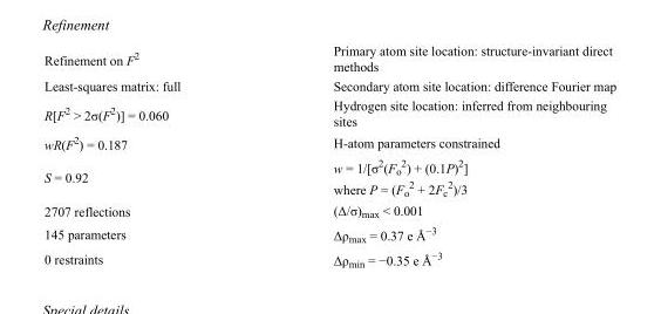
<table><tbody><tr><td>Refinement on F<sup>2</sup></td><td>Primary atom site location: structure-invariant direct methods</td></tr><tr><td>Least-squares matrix: full</td><td>Secondary atom site location: difference Fourier map</td></tr><tr><td>R[F<sup>2</sup> &gt; 2σ(F<sup>2</sup>)] = 0.060</td><td>Hydrogen site location: inferred from neighbouring sites</td></tr><tr><td>wR(F<sup>2</sup>) = 0.187</td><td>H-atom parameters constrained</td></tr><tr><td>S = 0.92</td><td>w = 1/[σ<sup>2</sup>(F<sub>o</sub> <sup>2</sup>) + (0.1P)<sup>2</sup>] where P = (F<sub>o</sub> <sup>2</sup> + 2F<sub>c</sub> <sup>2</sup>)/3</td></tr><tr><td>2707 reflections</td><td>(Δ/σ)<sub>max</sub> &lt; 0.001</td></tr><tr><td>145 parameters</td><td>Δρ<sub>max</sub> = 0.37 e Å<sup>−3</sup></td></tr><tr><td>0 restraints</td><td>Δρ<sub>min</sub> = −0.35 e Å<sup>−3</sup></td></tr></tbody></table>